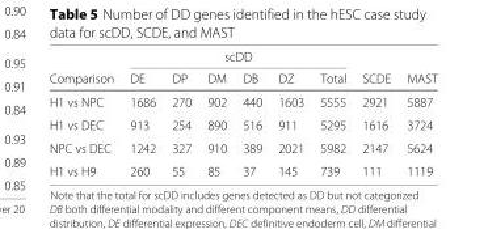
<table><thead><tr><td rowspan="2">Comparison</td><td colspan="6">scDD</td><td rowspan="2">SCDE</td><td rowspan="2">MAST</td></tr><tr><td>DE</td><td>DP</td><td>DM</td><td>DB</td><td>DZ</td><td>Total</td></tr></thead><tbody><tr><td>H1 vs NPC</td><td>1686</td><td>270</td><td>902</td><td>440</td><td>1603</td><td>5555</td><td>2921</td><td>5887</td></tr><tr><td>H1 vs DEC</td><td>913</td><td>254</td><td>890</td><td>516</td><td>911</td><td>5295</td><td>1616</td><td>3724</td></tr><tr><td>NPC vs DEC</td><td>1242</td><td>327</td><td>910</td><td>389</td><td>2021</td><td>5982</td><td>2147</td><td>5624</td></tr><tr><td>H1 vs H9</td><td>260</td><td>55</td><td>85</td><td>37</td><td>145</td><td>739</td><td>111</td><td>1119</td></tr></tbody></table>